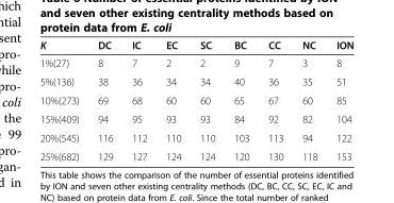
<table><thead><tr><td>K</td><td>DC</td><td>IC</td><td>EC</td><td>SC</td><td>BC</td><td>CC</td><td>NC</td><td>ION</td></tr></thead><tbody><tr><td>1%(27)</td><td>8</td><td>7</td><td>2</td><td>2</td><td>9</td><td>7</td><td>3</td><td>8</td></tr><tr><td>5%(136)</td><td>38</td><td>36</td><td>34</td><td>34</td><td>40</td><td>36</td><td>35</td><td>51</td></tr><tr><td>10%(273)</td><td>69</td><td>68</td><td>60</td><td>60</td><td>65</td><td>67</td><td>60</td><td>85</td></tr><tr><td>15%(409)</td><td>94</td><td>95</td><td>93</td><td>93</td><td>84</td><td>92</td><td>82</td><td>104</td></tr><tr><td>20%(545)</td><td>116</td><td>112</td><td>110</td><td>110</td><td>103</td><td>113</td><td>94</td><td>122</td></tr><tr><td>25%(682)</td><td>129</td><td>127</td><td>124</td><td>124</td><td>120</td><td>130</td><td>118</td><td>153</td></tr></tbody></table>